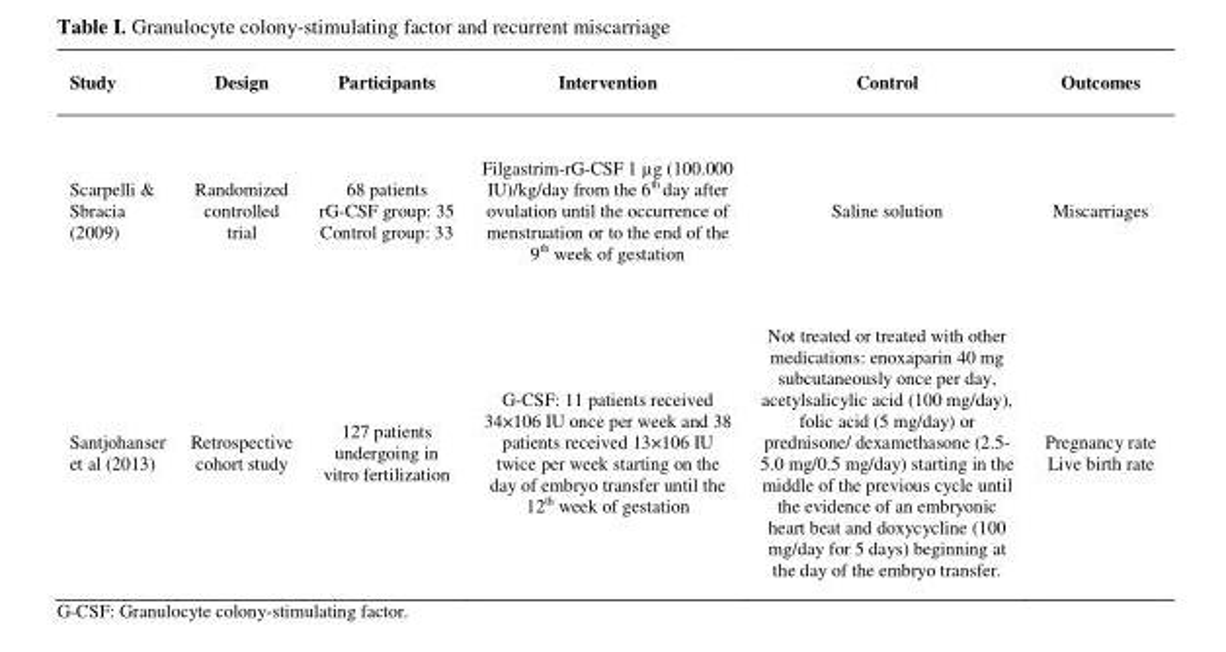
<table><thead><tr><td>Study</td><td>Design</td><td>Participants</td><td>Intervention</td><td>Control</td><td>Outcomes</td></tr></thead><tbody><tr><td>Scarpelli &amp; Sbracia (2009)</td><td>Randomized controlled trial</td><td>68 patients rG-CSF group: 35 Control group: 33</td><td>Filgastrim-rG-CSF 1 µg (100.000 IU)/kg/day from the 6<sup>th</sup> day after ovulation until the occurrence of menstruation or to the end of the 9<sup>th</sup> week of gestation</td><td>Saline solution</td><td>Miscarriages</td></tr><tr><td>Santjohanser et al (2013)</td><td>Retrospective cohort study</td><td>127 patients undergoing in vitro fertilization</td><td>G-CSF: 11 patients received 34×106 IU once per week and 38 patients received 13×106 IU twice per week starting on the day of embryo transfer until the 12<sup>th</sup> week of gestation</td><td>Not treated or treated with other medications: enoxaparin 40 mg subcutaneously once per day, acetylsalicylic acid (100 mg/day), folic acid (5 mg/day) or prednisone/ dexamethasone (2.5- 5.0 mg/0.5 mg/day) starting in the middle of the previous cycle until the evidence of an embryonic heart beat and doxycycline (100 mg/day for 5 days) beginning at the day of the embryo transfer.</td><td>Pregnancy rate Live birth rate</td></tr></tbody></table>